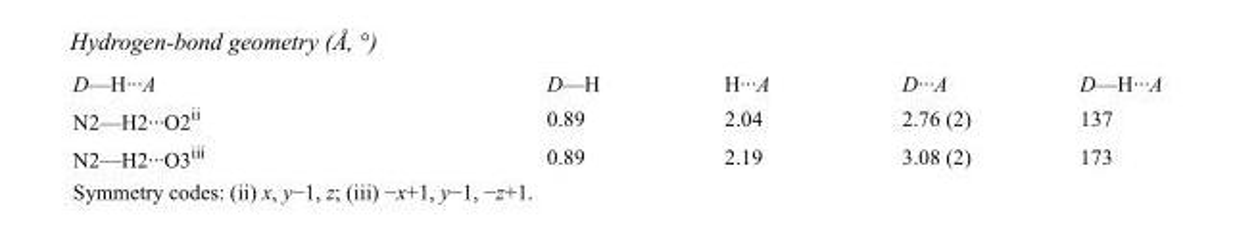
<table><tbody><tr><td>D—H···A</td><td>D—H</td><td>H···A</td><td>D···A</td><td>D—H···A</td></tr><tr><td>N2—H2···O2<sup>ii</sup></td><td>0.89</td><td>2.04</td><td>2.76 (2)</td><td>137</td></tr><tr><td>N2—H2···O3<sup>iii</sup></td><td>0.89</td><td>2.19</td><td>3.08 (2)</td><td>173</td></tr></tbody></table>